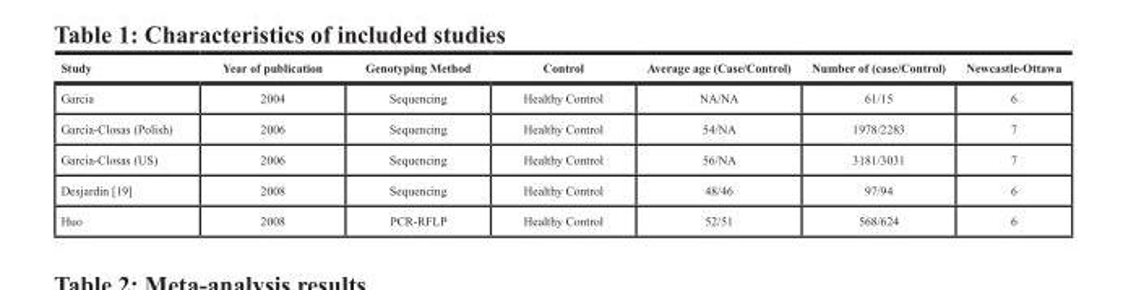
<table><thead><tr><td>Study</td><td>Year of publication</td><td>Genotyping Method</td><td>Control</td><td>Average age (Case/Control)</td><td>Number of (case/Control)</td><td>Newcastle-Ottawa</td></tr></thead><tbody><tr><td>Garcia</td><td>2004</td><td>Sequencing</td><td>Healthy Control</td><td>NA/NA</td><td>61/15</td><td>6</td></tr><tr><td>Garcia-Closas (Polish)</td><td>2006</td><td>Sequencing</td><td>Healthy Control</td><td>54/NA</td><td>1978/2283</td><td>7</td></tr><tr><td>Garcia-Closas (US)</td><td>2006</td><td>Sequencing</td><td>Healthy Control</td><td>56/NA</td><td>3181/3031</td><td>7</td></tr><tr><td>Desjardin [19]</td><td>2008</td><td>Sequencing</td><td>Healthy Control</td><td>48/46</td><td>97/94</td><td>6</td></tr><tr><td>Huo</td><td>2008</td><td>PCR-RFLP</td><td>Healthy Control</td><td>52/51</td><td>568/624</td><td>6</td></tr></tbody></table>